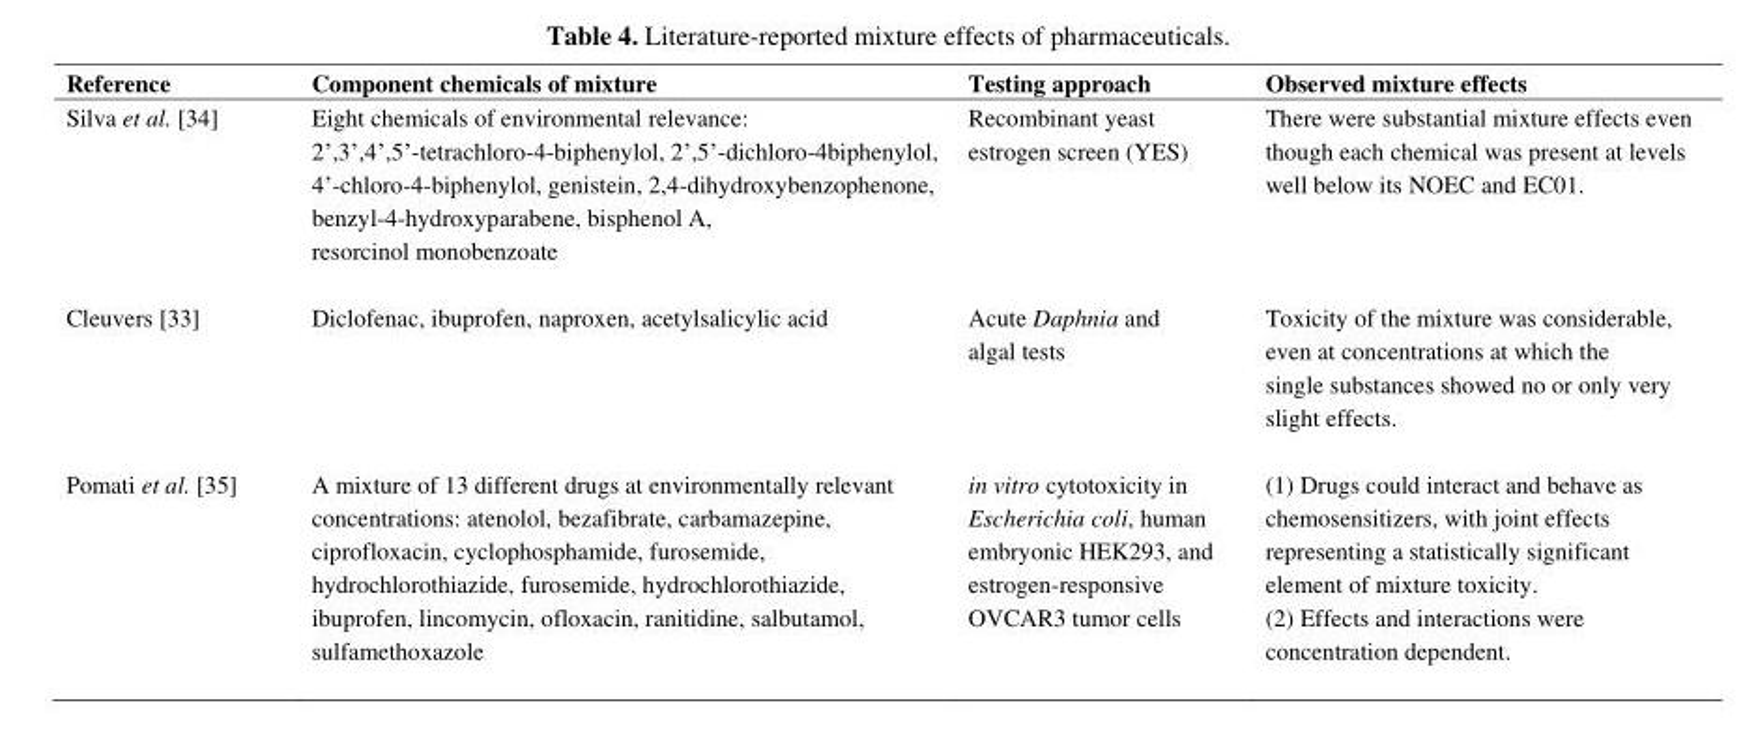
<table><thead><tr><td>Reference</td><td>Component chemicals of mixture</td><td>Testing approach</td><td>Observed mixture effects</td></tr></thead><tbody><tr><td>Silva et al. [34]</td><td>Eight chemicals of environmental relevance: 2’,3’,4’,5’-tetrachloro-4-biphenylol, 2’,5’-dichloro-4biphenylol, 4’-chloro-4-biphenylol, genistein, 2,4-dihydroxybenzophenone, benzyl-4-hydroxyparabene, bisphenol A, resorcinol monobenzoate</td><td>Recombinant yeast estrogen screen (YES)</td><td>There were substantial mixture effects even though each chemical was present at levels well below its NOEC and EC01.</td></tr><tr><td>Cleuvers [33]</td><td>Diclofenac, ibuprofen, naproxen, acetylsalicylic acid</td><td>Acute Daphnia and algal tests</td><td>Toxicity of the mixture was considerable, even at concentrations at which the single substances showed no or only very slight effects.</td></tr><tr><td>Pomati et al. [35]</td><td>A mixture of 13 different drugs at environmentally relevant concentrations: atenolol, bezafibrate, carbamazepine, ciprofloxacin, cyclophosphamide, furosemide, hydrochlorothiazide, furosemide, hydrochlorothiazide, ibuprofen, lincomycin, ofloxacin, ranitidine, salbutamol, sulfamethoxazole</td><td>in vitro cytotoxicity in Escherichia coli, human embryonic HEK293, and estrogen-responsive OVCAR3 tumor cells</td><td>(1) Drugs could interact and behave as chemosensitizers, with joint effects representing a statistically significant element of mixture toxicity. (2) Effects and interactions were concentration dependent.</td></tr></tbody></table>